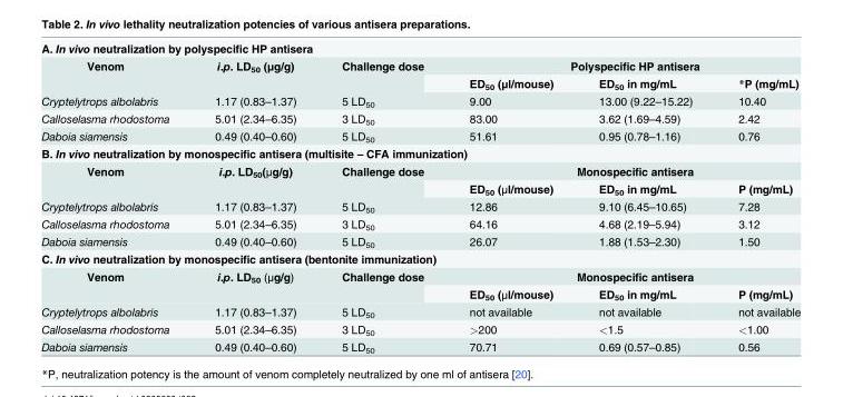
<table><tbody><tr><td colspan="6">A. In vivo neutralization by polyspecific HP antisera</td></tr><tr><td rowspan="2">Venom</td><td rowspan="2">i.p. LD<sub>50</sub> (μg/g)</td><td rowspan="2">Challenge dose</td><td colspan="3">Polyspecific HP antisera</td></tr><tr><td>ED<sub>50</sub> (μl/mouse)</td><td>ED<sub>50</sub> in mg/mL</td><td>*P (mg/mL)</td></tr><tr><td>Cryptelytrops albolabris</td><td>1.17 (0.83–1.37)</td><td>5 LD<sub>50</sub></td><td>9.00</td><td>13.00 (9.22–15.22)</td><td>10.40</td></tr><tr><td>Calloselasma rhodostoma</td><td>5.01 (2.34–6.35)</td><td>3 LD<sub>50</sub></td><td>83.00</td><td>3.62 (1.69–4.59)</td><td>2.42</td></tr><tr><td>Daboia siamensis</td><td>0.49 (0.40–0.60)</td><td>5 LD<sub>50</sub></td><td>51.61</td><td>0.95 (0.78–1.16)</td><td>0.76</td></tr><tr><td colspan="6">B. In vivo neutralization by monospecific antisera (multisite – CFA immunization)</td></tr><tr><td rowspan="2">Venom</td><td rowspan="2">i.p. LD<sub>50</sub>(μg/g)</td><td rowspan="2">Challenge dose</td><td colspan="3">Monospecific antisera</td></tr><tr><td>ED<sub>50</sub> (μl/mouse)</td><td>ED<sub>50</sub> in mg/mL</td><td>P (mg/mL)</td></tr><tr><td>Cryptelytrops albolabris</td><td>1.17 (0.83–1.37)</td><td>5 LD<sub>50</sub></td><td>12.86</td><td>9.10 (6.45–10.65)</td><td>7.28</td></tr><tr><td>Calloselasma rhodostoma</td><td>5.01 (2.34–6.35)</td><td>3 LD<sub>50</sub></td><td>64.16</td><td>4.68 (2.19–5.94)</td><td>3.12</td></tr><tr><td>Daboia siamensis</td><td>0.49 (0.40–0.60)</td><td>5 LD<sub>50</sub></td><td>26.07</td><td>1.88 (1.53–2.30)</td><td>1.50</td></tr><tr><td colspan="6">C. In vivo neutralization by monospecific antisera (bentonite immunization)</td></tr><tr><td rowspan="2">Venom</td><td rowspan="2">i.p. LD<sub>50</sub> (μg/g)</td><td rowspan="2">Challenge dose</td><td colspan="3">Monospecific antisera</td></tr><tr><td>ED<sub>50</sub> (μl/mouse)</td><td>ED<sub>50</sub> in mg/mL</td><td>P (mg/mL)</td></tr><tr><td>Cryptelytrops albolabris</td><td>1.17 (0.83–1.37)</td><td>5 LD<sub>50</sub></td><td>not available</td><td>not available</td><td>not available</td></tr><tr><td>Calloselasma rhodostoma</td><td>5.01 (2.34–6.35)</td><td>3 LD<sub>50</sub></td><td>&gt;200</td><td>&lt;1.5</td><td>&lt;1.00</td></tr><tr><td>Daboia siamensis</td><td>0.49 (0.40–0.60)</td><td>5 LD<sub>50</sub></td><td>70.71</td><td>0.69 (0.57–0.85)</td><td>0.56</td></tr></tbody></table>